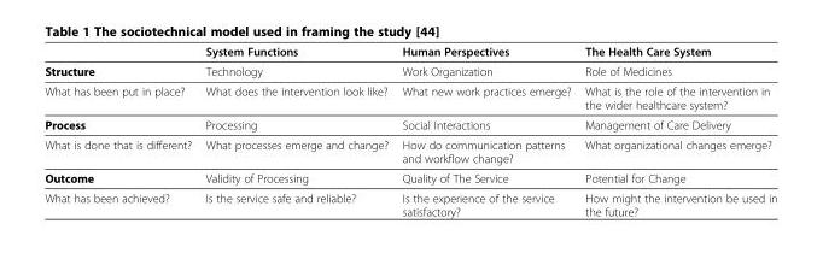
<table><thead><tr><td></td><td>System Functions</td><td>Human Perspectives</td><td>The Health Care System</td></tr></thead><tbody><tr><td>Structure</td><td>Technology</td><td>Work Organization</td><td>Role of Medicines</td></tr><tr><td>What has been put in place?</td><td>What does the intervention look like?</td><td>What new work practices emerge?</td><td>What is the role of the intervention in the wider healthcare system?</td></tr><tr><td>Process</td><td>Processing</td><td>Social Interactions</td><td>Management of Care Delivery</td></tr><tr><td>What is done that is different?</td><td>What processes emerge and change?</td><td>How do communication patterns and workflow change?</td><td>What organizational changes emerge?</td></tr><tr><td>Outcome</td><td>Validity of Processing</td><td>Quality of The Service</td><td>Potential for Change</td></tr><tr><td>What has been achieved?</td><td>Is the service safe and reliable?</td><td>Is the experience of the service satisfactory?</td><td>How might the intervention be used in the future?</td></tr></tbody></table>